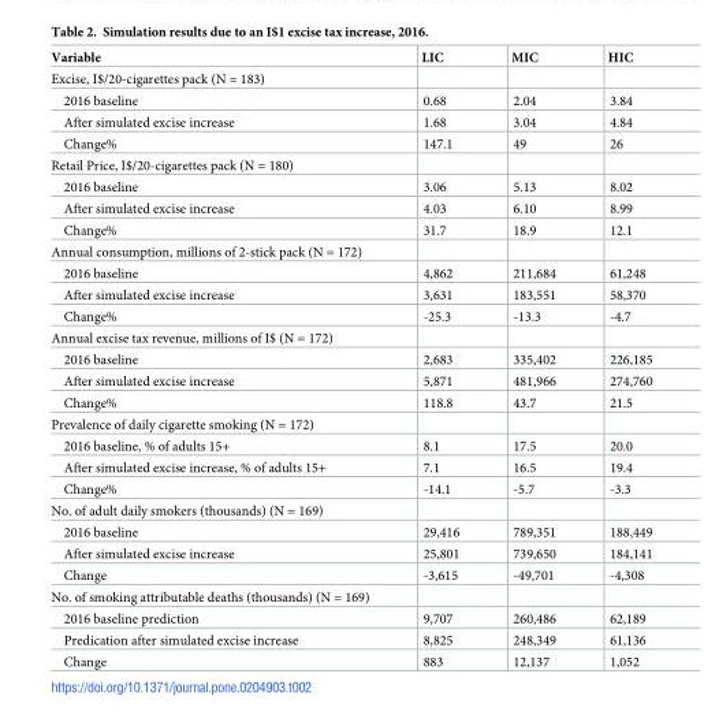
<table><thead><tr><td>Variable</td><td>LIC</td><td>MIC</td><td>HIC</td></tr></thead><tbody><tr><td colspan="4">Excise, I$/20-cigarettes pack (N = 183)</td></tr><tr><td>2016 baseline</td><td>0.68</td><td>2.04</td><td>3.84</td></tr><tr><td>After simulated excise increase</td><td>1.68</td><td>3.04</td><td>4.84</td></tr><tr><td>Change%</td><td>147.1</td><td>49</td><td>26</td></tr><tr><td colspan="4">Retail Price, I$/20-cigarettes pack (N = 180)</td></tr><tr><td>2016 baseline</td><td>3.06</td><td>5.13</td><td>8.02</td></tr><tr><td>After simulated excise increase</td><td>4.03</td><td>6.10</td><td>8.99</td></tr><tr><td>Change%</td><td>31.7</td><td>18.9</td><td>12.1</td></tr><tr><td colspan="4">Annual consumption, millions of 2-stick pack (N = 172)</td></tr><tr><td>2016 baseline</td><td>4,862</td><td>211,684</td><td>61,248</td></tr><tr><td>After simulated excise increase</td><td>3,631</td><td>183,551</td><td>58,370</td></tr><tr><td>Change%</td><td>-25.3</td><td>-13.3</td><td>-4.7</td></tr><tr><td colspan="4">Annual excise tax revenue, millions of I$ (N = 172)</td></tr><tr><td>2016 baseline</td><td>2,683</td><td>335,402</td><td>226,185</td></tr><tr><td>After simulated excise increase</td><td>5,871</td><td>481,966</td><td>274,760</td></tr><tr><td>Change%</td><td>118.8</td><td>43.7</td><td>21.5</td></tr><tr><td colspan="4">Prevalence of daily cigarette smoking (N = 172)</td></tr><tr><td>2016 baseline, % of adults 15+</td><td>8.1</td><td>17.5</td><td>20.0</td></tr><tr><td>After simulated excise increase, % of adults 15+</td><td>7.1</td><td>16.5</td><td>19.4</td></tr><tr><td>Change%</td><td>-14.1</td><td>-5.7</td><td>-3.3</td></tr><tr><td colspan="4">No. of adult daily smokers (thousands) (N = 169)</td></tr><tr><td>2016 baseline</td><td>29,416</td><td>789,351</td><td>188,449</td></tr><tr><td>After simulated excise increase</td><td>25,801</td><td>739,650</td><td>184,141</td></tr><tr><td>Change</td><td>-3,615</td><td>-49,701</td><td>-4,308</td></tr><tr><td colspan="4">No. of smoking attributable deaths (thousands) (N = 169)</td></tr><tr><td>2016 baseline prediction</td><td>9,707</td><td>260,486</td><td>62,189</td></tr><tr><td>Predication after simulated excise increase</td><td>8,825</td><td>248,349</td><td>61,136</td></tr><tr><td>Change</td><td>883</td><td>12,137</td><td>1,052</td></tr></tbody></table>